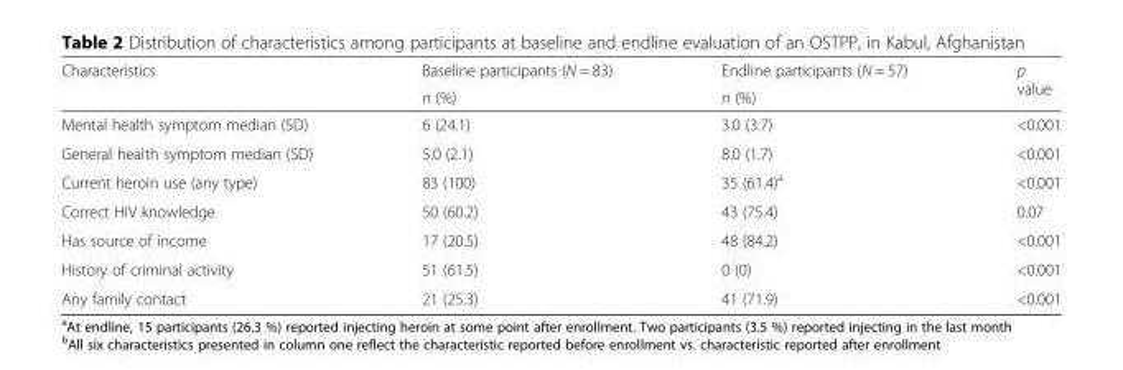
<table><thead><tr><td rowspan="2">Characteristics</td><td rowspan="2">Baseline participants (N = 83) n (%)</td><td rowspan="2">Endline participants (N = 57) n (%)</td><td rowspan="2">p value</td></tr><tr></tr></thead><tbody><tr><td>Mental health symptom median (SD)</td><td>6 (24.1)</td><td>3.0 (3.7)</td><td>&lt;0.001</td></tr><tr><td>General health symptom median (SD)</td><td>5.0 (2.1)</td><td>8.0 (1.7)</td><td>&lt;0.001</td></tr><tr><td>Current heroin use (any type)</td><td>83 (100)</td><td>35 (61.4)<sup>a</sup></td><td>&lt;0.001</td></tr><tr><td>Correct HIV knowledge</td><td>50 (60.2)</td><td>43 (75.4)</td><td>0.07</td></tr><tr><td>Has source of income</td><td>17 (20.5)</td><td>48 (84.2)</td><td>&lt;0.001</td></tr><tr><td>History of criminal activity</td><td>51 (61.5)</td><td>0 (0)</td><td>&lt;0.001</td></tr><tr><td>Any family contact</td><td>21 (25.3)</td><td>41 (71.9)</td><td>&lt;0.001</td></tr></tbody></table>